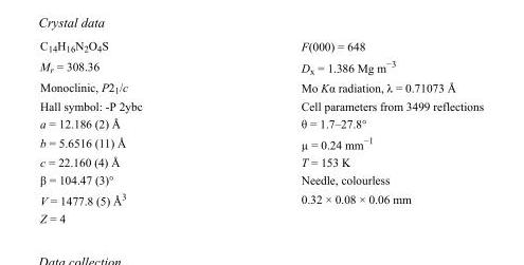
<table><tbody><tr><td>C<sub>14</sub>H<sub>16</sub>N<sub>2</sub>O<sub>4</sub>S</td><td>F(000) = 648</td></tr><tr><td>M<sub>r</sub> = 308.36</td><td>D<sub>x</sub> = 1.386 Mg m<sup>−3</sup></td></tr><tr><td>Monoclinic, P2<sub>1</sub>/c</td><td>Mo Kα radiation, λ = 0.71073 Å</td></tr><tr><td>Hall symbol: -P 2ybc</td><td>Cell parameters from 3499 reflections</td></tr><tr><td>a = 12.186 (2) Å</td><td>θ = 1.7–27.8°</td></tr><tr><td>b = 5.6516 (11) Å</td><td>µ = 0.24 mm<sup>−1</sup></td></tr><tr><td>c = 22.160 (4) Å</td><td>T = 153 K</td></tr><tr><td>β = 104.47 (3)°</td><td>Needle, colourless</td></tr><tr><td>V = 1477.8 (5) Å<sup>3</sup></td><td>0.32 × 0.08 × 0.06 mm</td></tr><tr><td>Z = 4</td><td></td></tr></tbody></table>